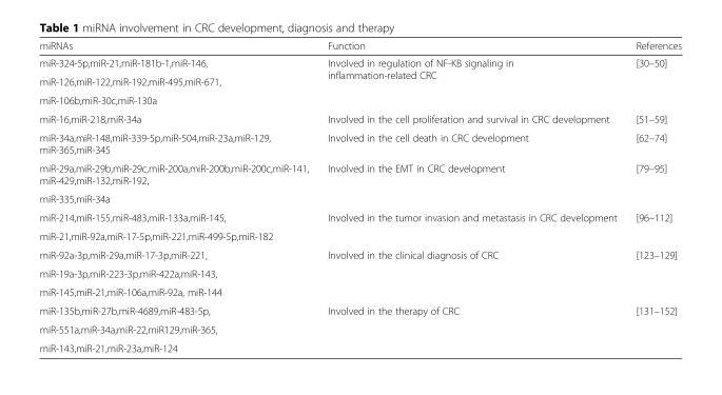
<table><thead><tr><td>miRNAs</td><td>Function</td><td>References</td></tr></thead><tbody><tr><td>miR-324-5p,miR-21,miR-181b-1,miR-146,</td><td rowspan="3">Involved in regulation of NF-KB signaling in inflammation-related CRC</td><td rowspan="3">[30–50]</td></tr><tr><td>miR-126,miR-122,miR-192,miR-495,miR-671,</td></tr><tr><td>miR-106b,miR-30c,miR-130a</td></tr><tr><td>miR-16,miR-218,miR-34a</td><td>Involved in the cell proliferation and survival in CRC development</td><td>[51–59]</td></tr><tr><td>miR-34a,miR-148,miR-339-5p,miR-504,miR-23a,miR-129, miR-365,miR-345</td><td>Involved in the cell death in CRC development</td><td>[62–74]</td></tr><tr><td>miR-29a,miR-29b,miR-29c,miR-200a,miR-200b,miR-200c,miR-141, miR-429,miR-132,miR-192,</td><td rowspan="2">Involved in the EMT in CRC development</td><td rowspan="2">[79–95]</td></tr><tr><td>miR-335,miR-34a</td></tr><tr><td>miR-214,miR-155,miR-483,miR-133a,miR-145,</td><td rowspan="2">Involved in the tumor invasion and metastasis in CRC development</td><td rowspan="2">[96–112]</td></tr><tr><td>miR-21,miR-92a,miR-17-5p,miR-221,miR-499-5p,miR-182</td></tr><tr><td>miR-92a-3p,miR-29a,miR-17-3p,miR-221,</td><td rowspan="3">Involved in the clinical diagnosis of CRC</td><td rowspan="3">[123–129]</td></tr><tr><td>miR-19a-3p,miR-223-3p,miR-422a,miR-143,</td></tr><tr><td>miR-145,miR-21,miR-106a,miR-92a, miR-144</td></tr><tr><td>miR-135b,miR-27b,miR-4689,miR-483-5p,</td><td rowspan="3">Involved in the therapy of CRC</td><td rowspan="3">[131–152]</td></tr><tr><td>miR-551a,miR-34a,miR-22,miR129,miR-365,</td></tr><tr><td>miR-143,miR-21,miR-23a,miR-124</td></tr></tbody></table>